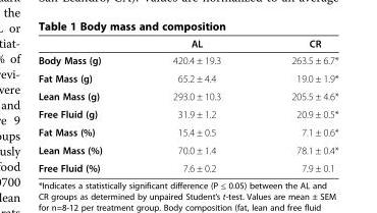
<table><thead><tr><td></td><td>AL</td><td>CR</td></tr></thead><tbody><tr><td>Body Mass (g)</td><td>420.4 ± 19.3</td><td>263.5 ± 6.7*</td></tr><tr><td>Fat Mass (g)</td><td>65.2 ± 4.4</td><td>19.0 ± 1.9*</td></tr><tr><td>Lean Mass (g)</td><td>293.0 ± 10.3</td><td>205.5 ± 4.6*</td></tr><tr><td>Free Fluid (g)</td><td>31.9 ± 1.2</td><td>20.9 ± 0.5*</td></tr><tr><td>Fat Mass (%)</td><td>15.4 ± 0.5</td><td>7.1 ± 0.6*</td></tr><tr><td>Lean Mass (%)</td><td>70.0 ± 1.4</td><td>78.1 ± 0.4*</td></tr><tr><td>Free Fluid (%)</td><td>7.6 ± 0.2</td><td>7.9 ± 0.1</td></tr></tbody></table>